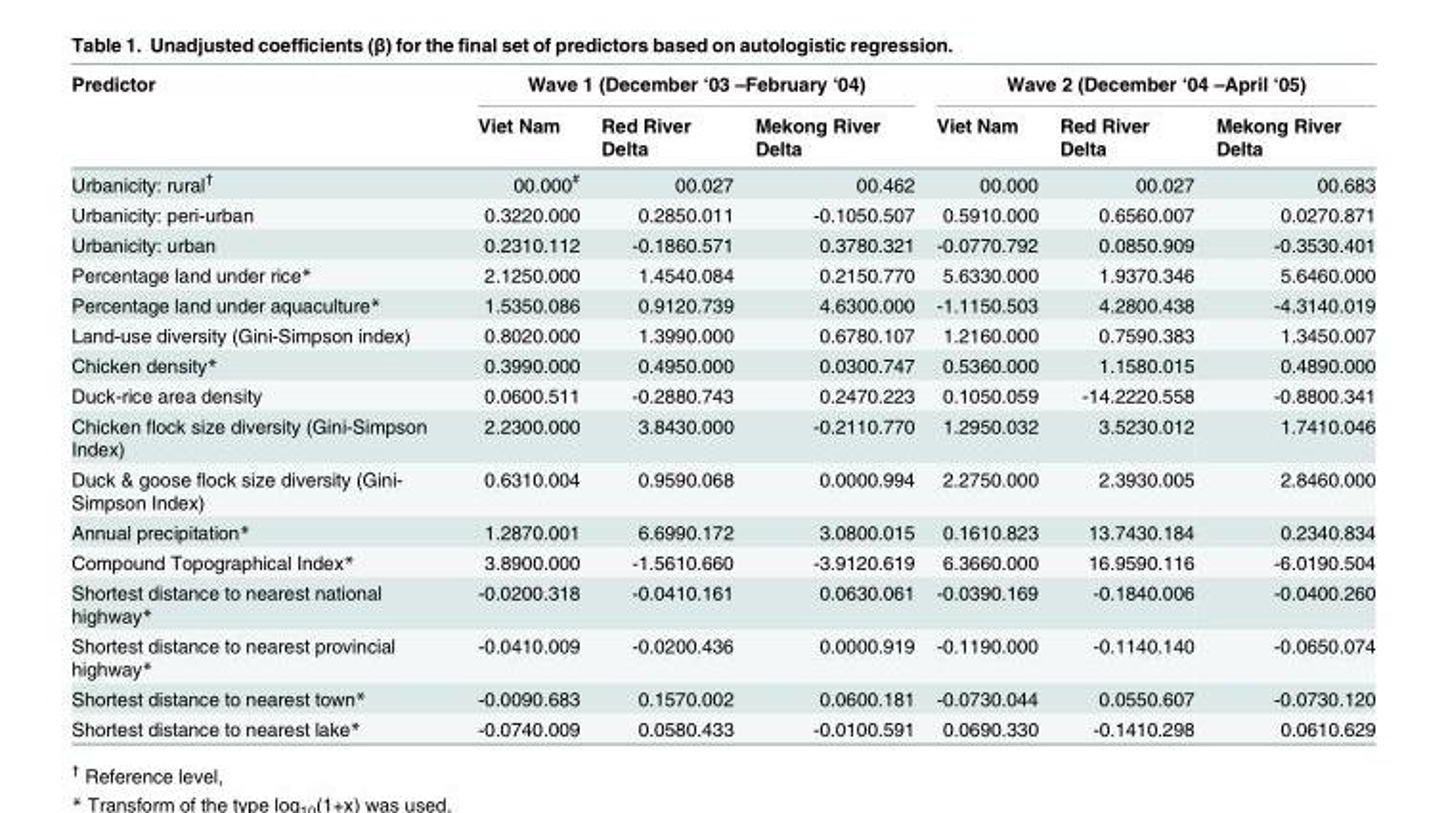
<table><thead><tr><td rowspan="2">Predictor</td><td colspan="3">Wave 1 (December ‘03 –February ‘04)</td><td colspan="3">Wave 2 (December ‘04 –April ‘05)</td></tr><tr><td>Viet Nam</td><td>Red River Delta</td><td>Mekong River Delta</td><td>Viet Nam</td><td>Red River Delta</td><td>Mekong River Delta</td></tr></thead><tbody><tr><td>Urbanicity: rural<sup>†</sup></td><td>00.000<sup>#</sup></td><td>00.027</td><td>00.462</td><td>00.000</td><td>00.027</td><td>00.683</td></tr><tr><td>Urbanicity: peri-urban</td><td>0.3220.000</td><td>0.2850.011</td><td>-0.1050.507</td><td>0.5910.000</td><td>0.6560.007</td><td>0.0270.871</td></tr><tr><td>Urbanicity: urban</td><td>0.2310.112</td><td>-0.1860.571</td><td>0.3780.321</td><td>-0.0770.792</td><td>0.0850.909</td><td>-0.3530.401</td></tr><tr><td>Percentage land under rice*</td><td>2.1250.000</td><td>1.4540.084</td><td>0.2150.770</td><td>5.6330.000</td><td>1.9370.346</td><td>5.6460.000</td></tr><tr><td>Percentage land under aquaculture*</td><td>1.5350.086</td><td>0.9120.739</td><td>4.6300.000</td><td>-1.1150.503</td><td>4.2800.438</td><td>-4.3140.019</td></tr><tr><td>Land-use diversity (Gini-Simpson index)</td><td>0.8020.000</td><td>1.3990.000</td><td>0.6780.107</td><td>1.2160.000</td><td>0.7590.383</td><td>1.3450.007</td></tr><tr><td>Chicken density*</td><td>0.3990.000</td><td>0.4950.000</td><td>0.0300.747</td><td>0.5360.000</td><td>1.1580.015</td><td>0.4890.000</td></tr><tr><td>Duck-rice area density</td><td>0.0600.511</td><td>-0.2880.743</td><td>0.2470.223</td><td>0.1050.059</td><td>-14.2220.558</td><td>-0.8800.341</td></tr><tr><td>Chicken flock size diversity (Gini-Simpson Index)</td><td>2.2300.000</td><td>3.8430.000</td><td>-0.2110.770</td><td>1.2950.032</td><td>3.5230.012</td><td>1.7410.046</td></tr><tr><td>Duck &amp; goose flock size diversity (Gini- Simpson Index)</td><td>0.6310.004</td><td>0.9590.068</td><td>0.0000.994</td><td>2.2750.000</td><td>2.3930.005</td><td>2.8460.000</td></tr><tr><td>Annual precipitation*</td><td>1.2870.001</td><td>6.6990.172</td><td>3.0800.015</td><td>0.1610.823</td><td>13.7430.184</td><td>0.2340.834</td></tr><tr><td>Compound Topographical Index*</td><td>3.8900.000</td><td>-1.5610.660</td><td>-3.9120.619</td><td>6.3660.000</td><td>16.9590.116</td><td>-6.0190.504</td></tr><tr><td>Shortest distance to nearest national highway*</td><td>-0.0200.318</td><td>-0.0410.161</td><td>0.0630.061</td><td>-0.0390.169</td><td>-0.1840.006</td><td>-0.0400.260</td></tr><tr><td>Shortest distance to nearest provincial highway*</td><td>-0.0410.009</td><td>-0.0200.436</td><td>0.0000.919</td><td>-0.1190.000</td><td>-0.1140.140</td><td>-0.0650.074</td></tr><tr><td>Shortest distance to nearest town*</td><td>-0.0090.683</td><td>0.1570.002</td><td>0.0600.181</td><td>-0.0730.044</td><td>0.0550.607</td><td>-0.0730.120</td></tr><tr><td>Shortest distance to nearest lake*</td><td>-0.0740.009</td><td>0.0580.433</td><td>-0.0100.591</td><td>0.0690.330</td><td>-0.1410.298</td><td>0.0610.629</td></tr></tbody></table>